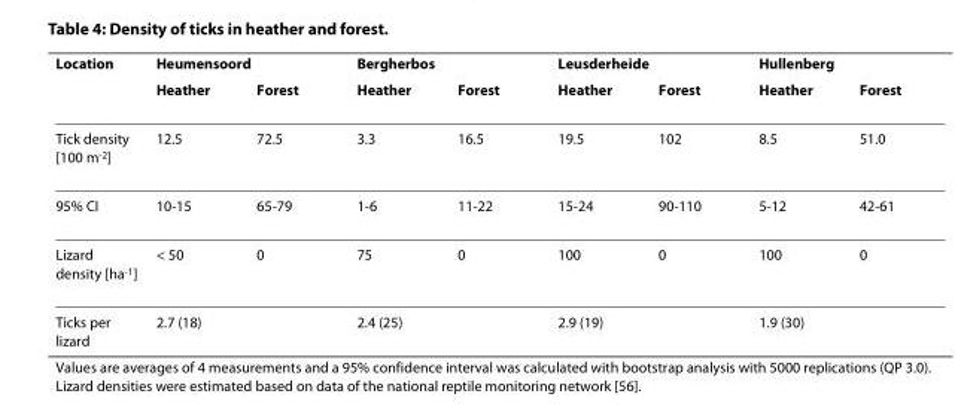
<table><thead><tr><td rowspan="2">Location</td><td colspan="2">Heumensoord</td><td colspan="2">Bergherbos</td><td colspan="2">Leusderheide</td><td colspan="2">Hullenberg</td></tr><tr><td>Heather</td><td>Forest</td><td>Heather</td><td>Forest</td><td>Heather</td><td>Forest</td><td>Heather</td><td>Forest</td></tr></thead><tbody><tr><td>Tick density [100 m<sup>-2</sup>]</td><td>12.5</td><td>72.5</td><td>3.3</td><td>16.5</td><td>19.5</td><td>102</td><td>8.5</td><td>51.0</td></tr><tr><td>95% CI</td><td>10-15</td><td>65-79</td><td>1-6</td><td>11-22</td><td>15-24</td><td>90-110</td><td>5-12</td><td>42-61</td></tr><tr><td>Lizard density [ha<sup>-1</sup>]</td><td>&lt; 50</td><td>0</td><td>75</td><td>0</td><td>100</td><td>0</td><td>100</td><td>0</td></tr><tr><td>Ticks per lizard</td><td>2.7 (18)</td><td></td><td>2.4 (25)</td><td></td><td>2.9 (19)</td><td></td><td>1.9 (30)</td><td></td></tr></tbody></table>